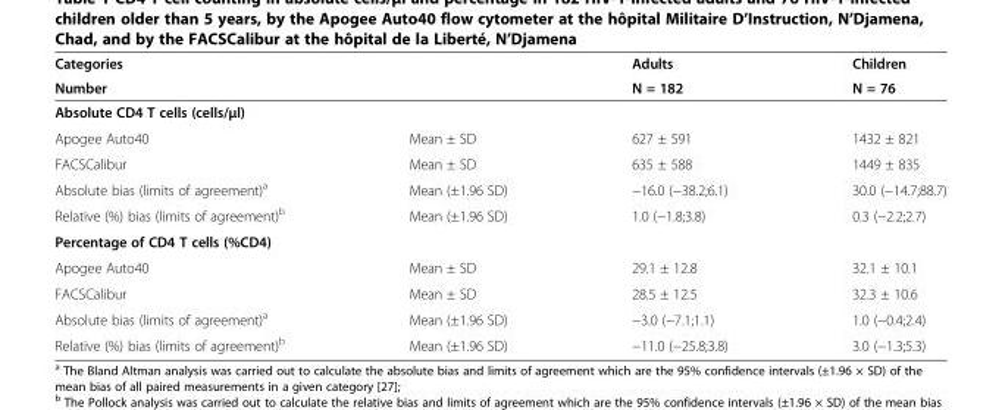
<table><thead><tr><td rowspan="2">Categories Number</td><td rowspan="2"></td><td rowspan="2">Adults N = 182</td><td rowspan="2">Children N = 76</td></tr><tr></tr></thead><tbody><tr><td colspan="4">Absolute CD4 T cells (cells/μl)</td></tr><tr><td>Apogee Auto40</td><td>Mean ± SD</td><td>627 ± 591</td><td>1432 ± 821</td></tr><tr><td>FACSCalibur</td><td>Mean ± SD</td><td>635 ± 588</td><td>1449 ± 835</td></tr><tr><td>Absolute bias (limits of agreement)<sup>a</sup></td><td>Mean (±1.96 SD)</td><td>−16.0 (−38.2;6.1)</td><td>30.0 (−14.7;88.7)</td></tr><tr><td>Relative (%) bias (limits of agreement)<sup>b</sup></td><td>Mean (±1.96 SD)</td><td>1.0 (−1.8;3.8)</td><td>0.3 (−2.2;2.7)</td></tr><tr><td colspan="4">Percentage of CD4 T cells (%CD4)</td></tr><tr><td>Apogee Auto40</td><td>Mean ± SD</td><td>29.1 ± 12.8</td><td>32.1 ± 10.1</td></tr><tr><td>FACSCalibur</td><td>Mean ± SD</td><td>28.5 ± 12.5</td><td>32.3 ± 10.6</td></tr><tr><td>Absolute bias (limits of agreement)<sup>a</sup></td><td>Mean (±1.96 SD)</td><td>−3.0 (−7.1;1.1)</td><td>1.0 (−0.4;2.4)</td></tr><tr><td>Relative (%) bias (limits of agreement)<sup>b</sup></td><td>Mean (±1.96 SD)</td><td>−11.0 (−25.8;3.8)</td><td>3.0 (−1.3;5.3)</td></tr></tbody></table>